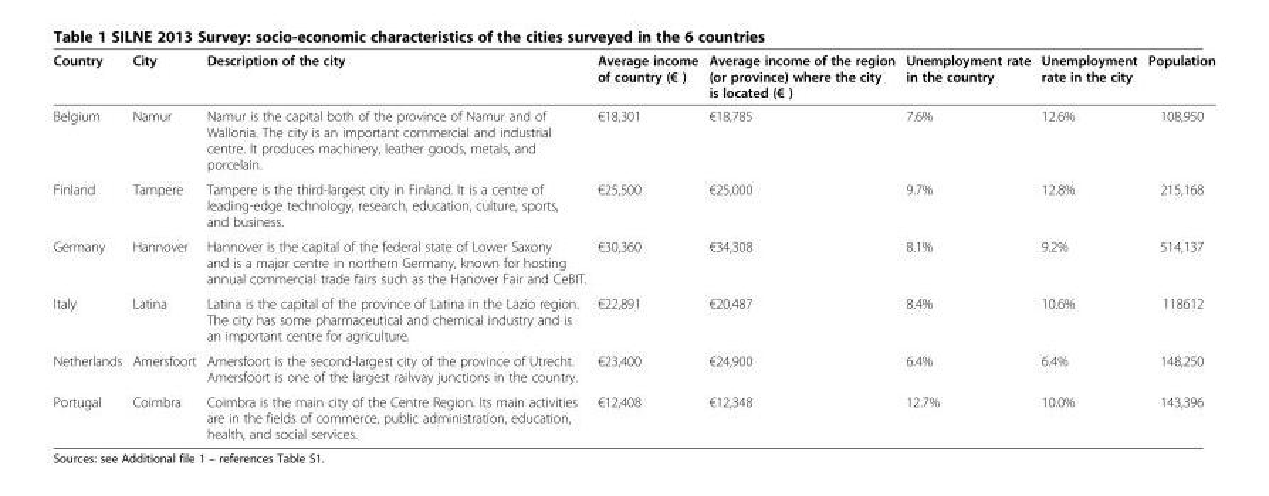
<table><thead><tr><td>Country</td><td>City</td><td>Description of the city</td><td>Average income of country (€ )</td><td>Average income of the region (or province) where the city is located (€ )</td><td>Unemployment rate in the country</td><td>Unemployment rate in the city</td><td>Population</td></tr></thead><tbody><tr><td>Belgium</td><td>Namur</td><td>Namur is the capital both of the province of Namur and of Wallonia. The city is an important commercial and industrial centre. It produces machinery, leather goods, metals, and porcelain.</td><td>€18,301</td><td>€18,785</td><td>7.6%</td><td>12.6%</td><td>108,950</td></tr><tr><td>Finland</td><td>Tampere</td><td>Tampere is the third-largest city in Finland. It is a centre of leading-edge technology, research, education, culture, sports, and business.</td><td>€25,500</td><td>€25,000</td><td>9.7%</td><td>12.8%</td><td>215,168</td></tr><tr><td>Germany</td><td>Hannover</td><td>Hannover is the capital of the federal state of Lower Saxony and is a major centre in northern Germany, known for hosting annual commercial trade fairs such as the Hanover Fair and CeBIT.</td><td>€30,360</td><td>€34,308</td><td>8.1%</td><td>9.2%</td><td>514,137</td></tr><tr><td>Italy</td><td>Latina</td><td>Latina is the capital of the province of Latina in the Lazio region. The city has some pharmaceutical and chemical industry and is an important centre for agriculture.</td><td>€22,891</td><td>€20,487</td><td>8.4%</td><td>10.6%</td><td>118612</td></tr><tr><td>Netherlands</td><td>Amersfoort</td><td>Amersfoort is the second-largest city of the province of Utrecht. Amersfoort is one of the largest railway junctions in the country.</td><td>€23,400</td><td>€24,900</td><td>6.4%</td><td>6.4%</td><td>148,250</td></tr><tr><td>Portugal</td><td>Coimbra</td><td>Coimbra is the main city of the Centre Region. Its main activities are in the fields of commerce, public administration, education, health, and social services.</td><td>€12,408</td><td>€12,348</td><td>12.7%</td><td>10.0%</td><td>143,396</td></tr></tbody></table>